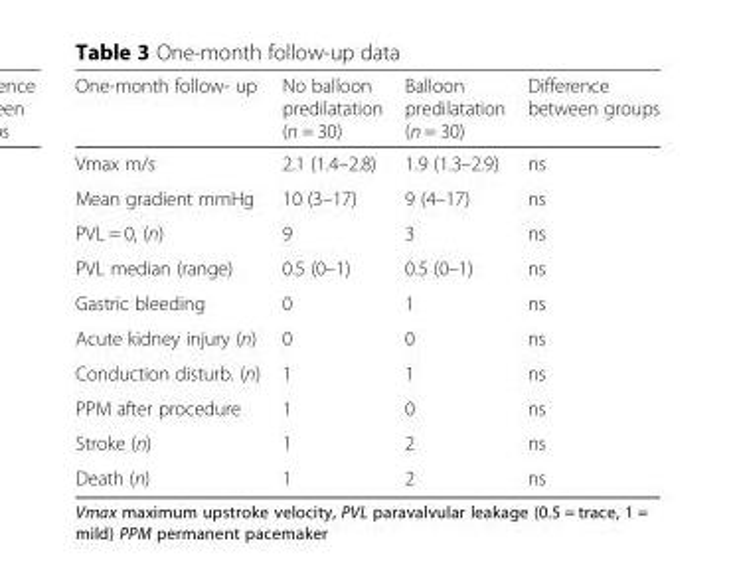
<table><thead><tr><td>One-month follow- up</td><td>No balloon predilatation (n = 30)</td><td>Balloon predilatation (n = 30)</td><td>Difference between groups</td></tr></thead><tbody><tr><td>Vmax m/s</td><td>2.1 (1.4–2.8)</td><td>1.9 (1.3–2.9)</td><td>ns</td></tr><tr><td>Mean gradient mmHg</td><td>10 (3–17)</td><td>9 (4–17)</td><td>ns</td></tr><tr><td>PVL = 0, (n)</td><td>9</td><td>3</td><td>ns</td></tr><tr><td>PVL median (range)</td><td>0.5 (0–1)</td><td>0.5 (0–1)</td><td>ns</td></tr><tr><td>Gastric bleeding</td><td>0</td><td>1</td><td>ns</td></tr><tr><td>Acute kidney injury (n)</td><td>0</td><td>0</td><td>ns</td></tr><tr><td>Conduction disturb. (n)</td><td>1</td><td>1</td><td>ns</td></tr><tr><td>PPM after procedure</td><td>1</td><td>0</td><td>ns</td></tr><tr><td>Stroke (n)</td><td>1</td><td>2</td><td>ns</td></tr><tr><td>Death (n)</td><td>1</td><td>2</td><td>ns</td></tr></tbody></table>